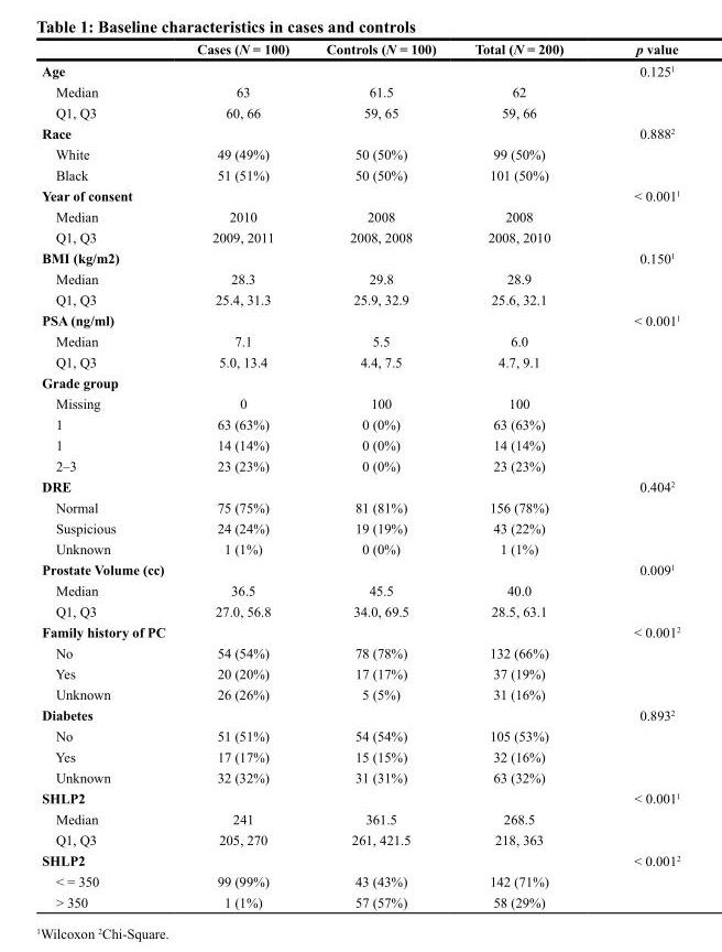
<table><thead><tr><td></td><td>Cases (N = 100)</td><td>Controls (N = 100)</td><td>Total (N = 200)</td><td>p value</td></tr></thead><tbody><tr><td>Age</td><td></td><td></td><td></td><td>0.125<sup>1</sup></td></tr><tr><td>Median</td><td>63</td><td>61.5</td><td>62</td><td></td></tr><tr><td>Q1, Q3</td><td>60, 66</td><td>59, 65</td><td>59, 66</td><td></td></tr><tr><td>Race</td><td></td><td></td><td></td><td>0.888<sup>2</sup></td></tr><tr><td>White</td><td>49 (49%)</td><td>50 (50%)</td><td>99 (50%)</td><td></td></tr><tr><td>Black</td><td>51 (51%)</td><td>50 (50%)</td><td>101 (50%)</td><td></td></tr><tr><td>Year of consent</td><td></td><td></td><td></td><td>&lt; 0.001<sup>1</sup></td></tr><tr><td>Median</td><td>2010</td><td>2008</td><td>2008</td><td></td></tr><tr><td>Q1, Q3</td><td>2009, 2011</td><td>2008, 2008</td><td>2008, 2010</td><td></td></tr><tr><td>BMI (kg/m2)</td><td></td><td></td><td></td><td>0.150<sup>1</sup></td></tr><tr><td>Median</td><td>28.3</td><td>29.8</td><td>28.9</td><td></td></tr><tr><td>Q1, Q3</td><td>25.4, 31.3</td><td>25.9, 32.9</td><td>25.6, 32.1</td><td></td></tr><tr><td>PSA (ng/ml)</td><td></td><td></td><td></td><td>&lt; 0.001<sup>1</sup></td></tr><tr><td>Median</td><td>7.1</td><td>5.5</td><td>6.0</td><td></td></tr><tr><td>Q1, Q3</td><td>5.0, 13.4</td><td>4.4, 7.5</td><td>4.7, 9.1</td><td></td></tr><tr><td colspan="5">Grade group</td></tr><tr><td>Missing</td><td>0</td><td>100</td><td>100</td><td></td></tr><tr><td>1</td><td>63 (63%)</td><td>0 (0%)</td><td>63 (63%)</td><td></td></tr><tr><td>1</td><td>14 (14%)</td><td>0 (0%)</td><td>14 (14%)</td><td></td></tr><tr><td>2–3</td><td>23 (23%)</td><td>0 (0%)</td><td>23 (23%)</td><td></td></tr><tr><td>DRE</td><td></td><td></td><td></td><td>0.404<sup>2</sup></td></tr><tr><td>Normal</td><td>75 (75%)</td><td>81 (81%)</td><td>156 (78%)</td><td></td></tr><tr><td>Suspicious</td><td>24 (24%)</td><td>19 (19%)</td><td>43 (22%)</td><td></td></tr><tr><td>Unknown</td><td>1 (1%)</td><td>0 (0%)</td><td>1 (1%)</td><td></td></tr><tr><td>Prostate Volume (cc)</td><td></td><td></td><td></td><td>0.009<sup>1</sup></td></tr><tr><td>Median</td><td>36.5</td><td>45.5</td><td>40.0</td><td></td></tr><tr><td>Q1, Q3</td><td>27.0, 56.8</td><td>34.0, 69.5</td><td>28.5, 63.1</td><td></td></tr><tr><td>Family history of PC</td><td></td><td></td><td></td><td>&lt; 0.001<sup>2</sup></td></tr><tr><td>No</td><td>54 (54%)</td><td>78 (78%)</td><td>132 (66%)</td><td></td></tr><tr><td>Yes</td><td>20 (20%)</td><td>17 (17%)</td><td>37 (19%)</td><td></td></tr><tr><td>Unknown</td><td>26 (26%)</td><td>5 (5%)</td><td>31 (16%)</td><td></td></tr><tr><td>Diabetes</td><td></td><td></td><td></td><td>0.893<sup>2</sup></td></tr><tr><td>No</td><td>51 (51%)</td><td>54 (54%)</td><td>105 (53%)</td><td></td></tr><tr><td>Yes</td><td>17 (17%)</td><td>15 (15%)</td><td>32 (16%)</td><td></td></tr><tr><td>Unknown</td><td>32 (32%)</td><td>31 (31%)</td><td>63 (32%)</td><td></td></tr><tr><td>SHLP2</td><td></td><td></td><td></td><td>&lt; 0.001<sup>1</sup></td></tr><tr><td>Median</td><td>241</td><td>361.5</td><td>268.5</td><td></td></tr><tr><td>Q1, Q3</td><td>205, 270</td><td>261, 421.5</td><td>218, 363</td><td></td></tr><tr><td>SHLP2</td><td></td><td></td><td></td><td>&lt; 0.001<sup>2</sup></td></tr><tr><td>&lt; = 350</td><td>99 (99%)</td><td>43 (43%)</td><td>142 (71%)</td><td></td></tr><tr><td>&gt; 350</td><td>1 (1%)</td><td>57 (57%)</td><td>58 (29%)</td><td></td></tr></tbody></table>